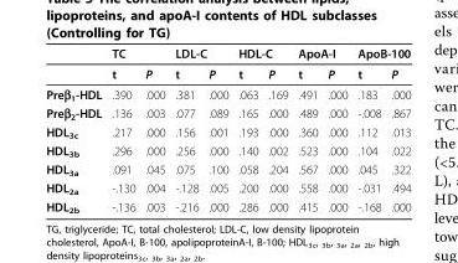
<table><thead><tr><td rowspan="2"></td><td colspan="2">TC</td><td colspan="2">LDL-C</td><td colspan="2">HDL-C</td><td colspan="2">ApoA-I</td><td colspan="2">ApoB-100</td></tr><tr><td>t</td><td>P</td><td>t</td><td>P</td><td>t</td><td>P</td><td>t</td><td>P</td><td>t</td><td>P</td></tr></thead><tbody><tr><td>Preβ<sub>1</sub>-HDL</td><td>.390</td><td>.000</td><td>.381</td><td>.000</td><td>.063</td><td>.169</td><td>.491</td><td>.000</td><td>.183</td><td>.000</td></tr><tr><td>Preβ<sub>2</sub>-HDL</td><td>.136</td><td>.003</td><td>.077</td><td>.089</td><td>.165</td><td>.000</td><td>.489</td><td>.000</td><td>-.008</td><td>.867</td></tr><tr><td>HDL<sub>3c</sub></td><td>.217</td><td>.000</td><td>.156</td><td>.001</td><td>.193</td><td>.000</td><td>.360</td><td>.000</td><td>.112</td><td>.013</td></tr><tr><td>HDL<sub>3b</sub></td><td>.296</td><td>.000</td><td>.256</td><td>.000</td><td>.140</td><td>.002</td><td>.523</td><td>.000</td><td>.104</td><td>.022</td></tr><tr><td>HDL<sub>3a</sub></td><td>.091</td><td>.045</td><td>.075</td><td>.100</td><td>.058</td><td>.204</td><td>.567</td><td>.000</td><td>.045</td><td>.322</td></tr><tr><td>HDL<sub>2a</sub></td><td>-.130</td><td>.004</td><td>-.128</td><td>.005</td><td>.200</td><td>.000</td><td>.558</td><td>.000</td><td>-.031</td><td>.494</td></tr><tr><td>HDL<sub>2b</sub></td><td>-.136</td><td>.003</td><td>-.216</td><td>.000</td><td>.286</td><td>.000</td><td>.415</td><td>.000</td><td>-.168</td><td>.000</td></tr></tbody></table>